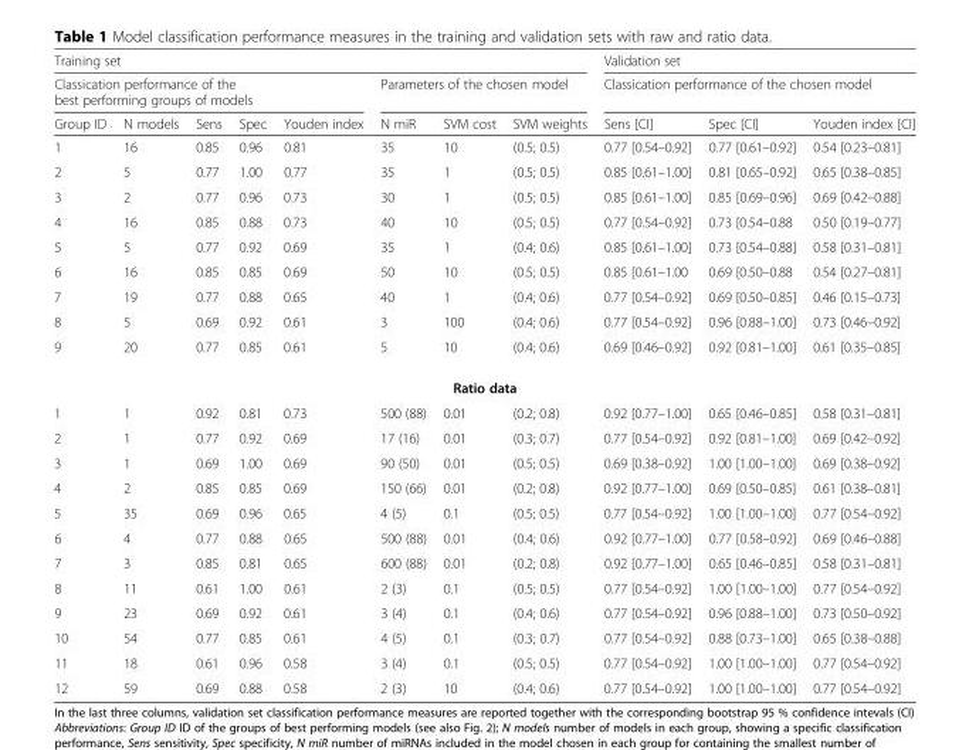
<table><thead><tr><td colspan="8">Training set</td><td rowspan="2" colspan="3">Validation set Classication performance of the chosen model</td></tr><tr><td colspan="5">Classication performance of the best performing groups of models</td><td colspan="3">Parameters of the chosen model</td></tr><tr><td>Group ID</td><td>N models</td><td>Sens</td><td>Spec</td><td>Youden index</td><td>N miR</td><td>SVM cost</td><td>SVM weights</td><td>Sens [CI]</td><td>Spec [CI]</td><td>Youden index [CI]</td></tr></thead><tbody><tr><td>1</td><td>16</td><td>0.85</td><td>0.96</td><td>0.81</td><td>35</td><td>10</td><td>(0.5; 0.5)</td><td>0.77 [0.54–0.92]</td><td>0.77 [0.61–0.92]</td><td>0.54 [0.23–0.81]</td></tr><tr><td>2</td><td>5</td><td>0.77</td><td>1.00</td><td>0.77</td><td>35</td><td>1</td><td>(0.5; 0.5)</td><td>0.85 [0.61–1.00]</td><td>0.81 [0.65–0.92]</td><td>0.65 [0.38–0.85]</td></tr><tr><td>3</td><td>2</td><td>0.77</td><td>0.96</td><td>0.73</td><td>30</td><td>1</td><td>(0.5; 0.5)</td><td>0.85 [0.61–1.00]</td><td>0.85 [0.69–0.96]</td><td>0.69 [0.42–0.88]</td></tr><tr><td>4</td><td>16</td><td>0.85</td><td>0.88</td><td>0.73</td><td>40</td><td>10</td><td>(0.5; 0.5)</td><td>0.77 [0.54–0.92]</td><td>0.73 [0.54–0.88</td><td>0.50 [0.19–0.77]</td></tr><tr><td>5</td><td>5</td><td>0.77</td><td>0.92</td><td>0.69</td><td>35</td><td>1</td><td>(0.4; 0.6)</td><td>0.85 [0.61–1.00]</td><td>0.73 [0.54–0.88]</td><td>0.58 [0.31–0.81]</td></tr><tr><td>6</td><td>16</td><td>0.85</td><td>0.85</td><td>0.69</td><td>50</td><td>10</td><td>(0.5; 0.5)</td><td>0.85 [0.61–1.00</td><td>0.69 [0.50–0.88</td><td>0.54 [0.27–0.81]</td></tr><tr><td>7</td><td>19</td><td>0.77</td><td>0.88</td><td>0.65</td><td>40</td><td>1</td><td>(0.4; 0.6)</td><td>0.77 [0.54–0.92]</td><td>0.69 [0.50–0.85]</td><td>0.46 [0.15–0.73]</td></tr><tr><td>8</td><td>5</td><td>0.69</td><td>0.92</td><td>0.61</td><td>3</td><td>100</td><td>(0.4; 0.6)</td><td>0.77 [0.54–0.92]</td><td>0.96 [0.88–1.00]</td><td>0.73 [0.46–0.92]</td></tr><tr><td>9</td><td>20</td><td>0.77</td><td>0.85</td><td>0.61</td><td>5</td><td>10</td><td>(0.4; 0.6)</td><td>0.69 [0.46–0.92]</td><td>0.92 [0.81–1.00]</td><td>0.61 [0.35–0.85]</td></tr><tr><td colspan="11">Ratio data</td></tr><tr><td>1</td><td>1</td><td>0.92</td><td>0.81</td><td>0.73</td><td>500 (88)</td><td>0.01</td><td>(0.2; 0.8)</td><td>0.92 [0.77–1.00]</td><td>0.65 [0.46–0.85]</td><td>0.58 [0.31–0.81]</td></tr><tr><td>2</td><td>1</td><td>0.77</td><td>0.92</td><td>0.69</td><td>17 (16)</td><td>0.01</td><td>(0.3; 0.7)</td><td>0.77 [0.54–0.92]</td><td>0.92 [0.81–1.00]</td><td>0.69 [0.42–0.92]</td></tr><tr><td>3</td><td>1</td><td>0.69</td><td>1.00</td><td>0.69</td><td>90 (50)</td><td>0.01</td><td>(0.5; 0.5)</td><td>0.69 [0.38–0.92]</td><td>1.00 [1.00–1.00]</td><td>0.69 [0.38–0.92]</td></tr><tr><td>4</td><td>2</td><td>0.85</td><td>0.85</td><td>0.69</td><td>150 (66)</td><td>0.01</td><td>(0.2; 0.8)</td><td>0.92 [0.77–1.00]</td><td>0.69 [0.50–0.85]</td><td>0.61 [0.38–0.81]</td></tr><tr><td>5</td><td>35</td><td>0.69</td><td>0.96</td><td>0.65</td><td>4 (5)</td><td>0.1</td><td>(0.5; 0.5)</td><td>0.77 [0.54–0.92]</td><td>1.00 [1.00–1.00]</td><td>0.77 [0.54–0.92]</td></tr><tr><td>6</td><td>4</td><td>0.77</td><td>0.88</td><td>0.65</td><td>500 (88)</td><td>0.01</td><td>(0.4; 0.6)</td><td>0.92 [0.77–1.00]</td><td>0.77 [0.58–0.92]</td><td>0.69 [0.46–0.88]</td></tr><tr><td>7</td><td>3</td><td>0.85</td><td>0.81</td><td>0.65</td><td>600 (88)</td><td>0.01</td><td>(0.2; 0.8)</td><td>0.92 [0.77–1.00]</td><td>0.65 [0.46–0.85]</td><td>0.58 [0.31–0.81]</td></tr><tr><td>8</td><td>11</td><td>0.61</td><td>1.00</td><td>0.61</td><td>2 (3)</td><td>0.1</td><td>(0.5; 0.5)</td><td>0.77 [0.54–0.92]</td><td>1.00 [1.00–1.00]</td><td>0.77 [0.54–0.92]</td></tr><tr><td>9</td><td>23</td><td>0.69</td><td>0.92</td><td>0.61</td><td>3 (4)</td><td>0.1</td><td>(0.4; 0.6)</td><td>0.77 [0.54–0.92]</td><td>0.96 [0.88–1.00]</td><td>0.73 [0.50–0.92]</td></tr><tr><td>10</td><td>54</td><td>0.77</td><td>0.85</td><td>0.61</td><td>4 (5)</td><td>0.1</td><td>(0.3; 0.7)</td><td>0.77 [0.54–0.92]</td><td>0.88 [0.73–1.00]</td><td>0.65 [0.38–0.88]</td></tr><tr><td>11</td><td>18</td><td>0.61</td><td>0.96</td><td>0.58</td><td>3 (4)</td><td>0.1</td><td>(0.5; 0.5)</td><td>0.77 [0.54–0.92]</td><td>1.00 [1.00–1.00]</td><td>0.77 [0.54–0.92]</td></tr><tr><td>12</td><td>59</td><td>0.69</td><td>0.88</td><td>0.58</td><td>2 (3)</td><td>10</td><td>(0.4; 0.6)</td><td>0.77 [0.54–0.92]</td><td>1.00 [1.00–1.00]</td><td>0.77 [0.54–0.92]</td></tr></tbody></table>